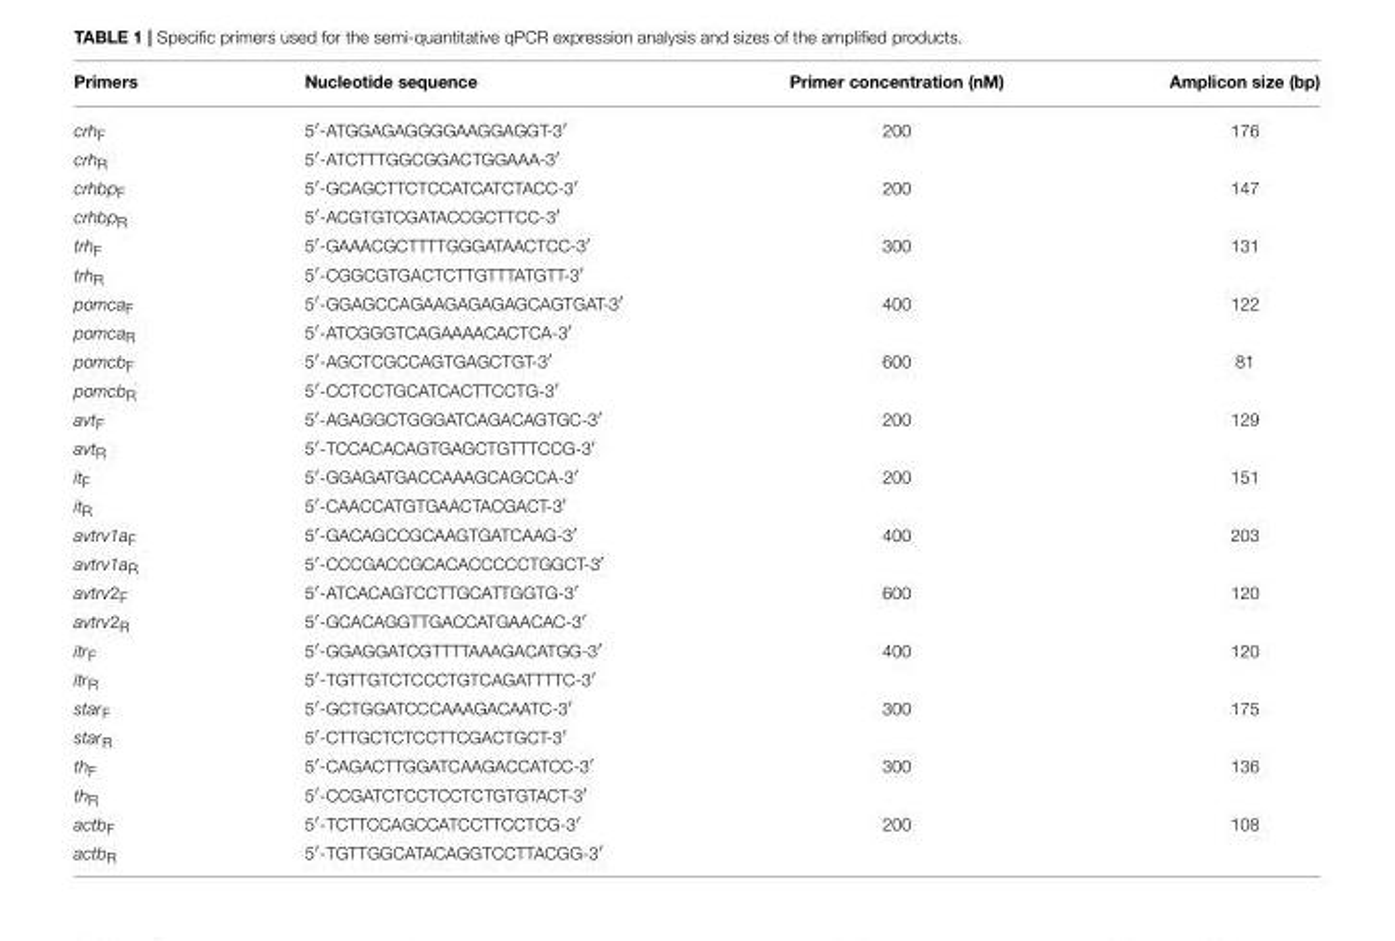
<table><thead><tr><td>Primers</td><td>Nucleotide sequence</td><td>Primer concentration (nM)</td><td>Amplicon size (bp)</td></tr></thead><tbody><tr><td>crh<sub>F</sub></td><td>5′-ATGGAGAGGGGAAGGAGGT-3′</td><td>200</td><td>176</td></tr><tr><td>crh<sub>R</sub></td><td>5′-ATCTTTGGCGGACTGGAAA-3′</td><td></td><td></td></tr><tr><td>crhbp<sub>F</sub></td><td>5′-GCAGCTTCTCCATCATCTACC-3′</td><td>200</td><td>147</td></tr><tr><td>crhbp<sub>R</sub></td><td>5′-ACGTGTCGATACCGCTTCC-3′</td><td></td><td></td></tr><tr><td>trh<sub>F</sub></td><td>5′-GAAACGCTTTTGGGATAACTCC-3′</td><td>300</td><td>131</td></tr><tr><td>trh<sub>R</sub></td><td>5′-CGGCGTGACTCTTGTTTATGTT-3′</td><td></td><td></td></tr><tr><td>pomca<sub>F</sub></td><td>5′-GGAGCCAGAAGAGAGAGCAGTGAT-3′</td><td>400</td><td>122</td></tr><tr><td>pomca<sub>R</sub></td><td>5′-ATCGGGTCAGAAAACACTCA-3′</td><td></td><td></td></tr><tr><td>pomcb<sub>F</sub></td><td>5′-AGCTCGCCAGTGAGCTGT-3′</td><td>600</td><td>81</td></tr><tr><td>pomcb<sub>R</sub></td><td>5′-CCTCCTGCATCACTTCCTG-3′</td><td></td><td></td></tr><tr><td>avt<sub>F</sub></td><td>5′-AGAGGCTGGGATCAGACAGTGC-3′</td><td>200</td><td>129</td></tr><tr><td>avt<sub>R</sub></td><td>5′-TCCACACAGTGAGCTGTTTCCG-3′</td><td></td><td></td></tr><tr><td>it<sub>F</sub></td><td>5′-GGAGATGACCAAAGCAGCCA-3′</td><td>200</td><td>151</td></tr><tr><td>it<sub>R</sub></td><td>5′-CAACCATGTGAACTACGACT-3′</td><td></td><td></td></tr><tr><td>avtrv1a<sub>F</sub></td><td>5′-GACAGCCGCAAGTGATCAAG-3′</td><td>400</td><td>203</td></tr><tr><td>avtrv1a<sub>R</sub></td><td>5′-CCCGACCGCACACCCCCTGGCT-3′</td><td></td><td></td></tr><tr><td>avtrv2<sub>F</sub></td><td>5′-ATCACAGTCCTTGCATTGGTG-3′</td><td>600</td><td>120</td></tr><tr><td>avtrv2<sub>R</sub></td><td>5′-GCACAGGTTGACCATGAACAC-3′</td><td></td><td></td></tr><tr><td>itr<sub>F</sub></td><td>5′-GGAGGATCGTTTTAAAGACATGG-3′</td><td>400</td><td>120</td></tr><tr><td>itr<sub>R</sub></td><td>5′-TGTTGTCTCCCTGTCAGATTTTC-3′</td><td></td><td></td></tr><tr><td>star<sub>F</sub></td><td>5′-GCTGGATCCCAAAGACAATC-3′</td><td>300</td><td>175</td></tr><tr><td>star<sub>R</sub></td><td>5′-CTTGCTCTCCTTCGACTGCT-3′</td><td></td><td></td></tr><tr><td>th<sub>F</sub></td><td>5′-CAGACTTGGATCAAGACCATCC-3′</td><td>300</td><td>136</td></tr><tr><td>th<sub>R</sub></td><td>5′-CCGATCTCCTCCTCTGTGTACT-3′</td><td></td><td></td></tr><tr><td>actb<sub>F</sub></td><td>5′-TCTTCCAGCCATCCTTCCTCG-3′</td><td>200</td><td>108</td></tr><tr><td>actb<sub>R</sub></td><td>5′-TGTTGGCATACAGGTCCTTACGG-3′</td><td></td><td></td></tr></tbody></table>